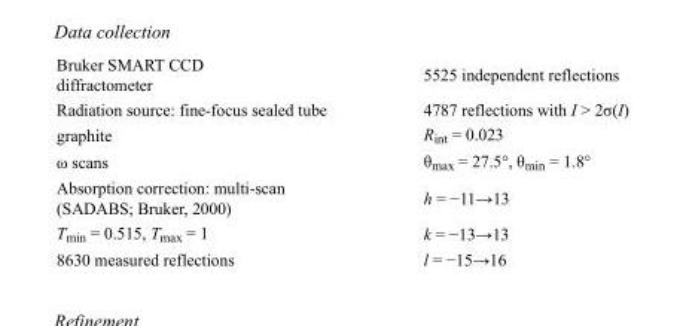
<table><tbody><tr><td>Bruker SMART CCD diffractometer</td><td>5525 independent reflections</td></tr><tr><td>Radiation source: fine-focus sealed tube</td><td>4787 reflections with I &gt; 2σ(I)</td></tr><tr><td>graphite</td><td>R<sub>int</sub> = 0.023</td></tr><tr><td>ω scans</td><td>θ<sub>max</sub> = 27.5°, θ<sub>min</sub> = 1.8°</td></tr><tr><td>Absorption correction: multi-scan (SADABS; Bruker, 2000)</td><td>h = −11→13</td></tr><tr><td>T<sub>min</sub> = 0.515, T<sub>max</sub> = 1</td><td>k = −13→13</td></tr><tr><td>8630 measured reflections</td><td>l = −15→16</td></tr></tbody></table>